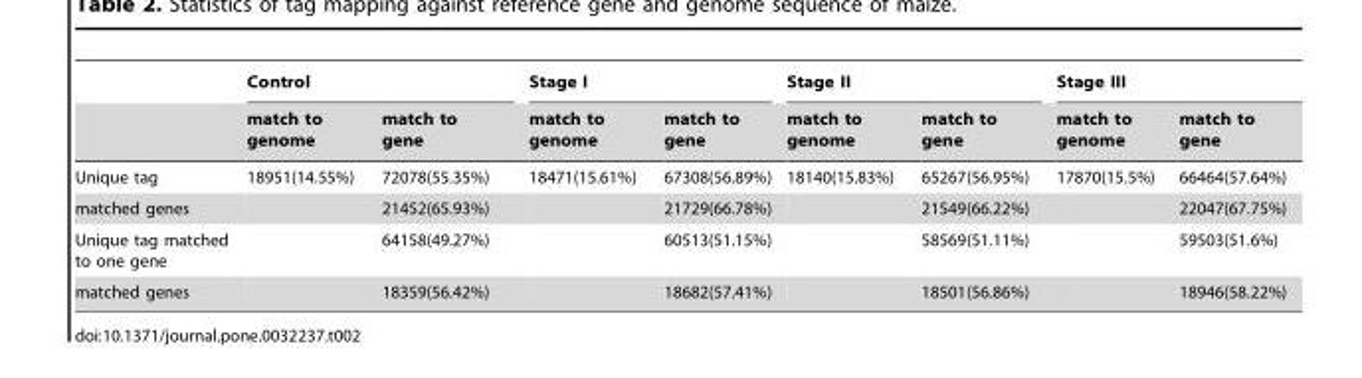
<table><thead><tr><td rowspan="2"></td><td colspan="2">Control</td><td colspan="2">Stage I</td><td colspan="2">Stage II</td><td colspan="2">Stage III</td></tr><tr><td>match to genome</td><td>match to gene</td><td>match to genome</td><td>match to gene</td><td>match to genome</td><td>match to gene</td><td>match to genome</td><td>match to gene</td></tr></thead><tbody><tr><td>Unique tag</td><td>18951(14.55%)</td><td>72078(55.35%)</td><td>18471(15.61%)</td><td>67308(56.89%)</td><td>18140(15.83%)</td><td>65267(56.95%)</td><td>17870(15.5%)</td><td>66464(57.64%)</td></tr><tr><td>matched genes</td><td></td><td>21452(65.93%)</td><td></td><td>21729(66.78%)</td><td></td><td>21549(66.22%)</td><td></td><td>22047(67.75%)</td></tr><tr><td>Unique tag matched to one gene</td><td></td><td>64158(49.27%)</td><td></td><td>60513(51.15%)</td><td></td><td>58569(51.11%)</td><td></td><td>59503(51.6%)</td></tr><tr><td>matched genes</td><td></td><td>18359(56.42%)</td><td></td><td>18682(57.41%)</td><td></td><td>18501(56.86%)</td><td></td><td>18946(58.22%)</td></tr></tbody></table>